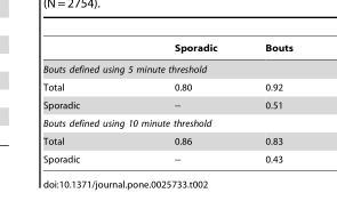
<table><thead><tr><td></td><td>Sporadic</td><td>Bouts</td></tr></thead><tbody><tr><td colspan="3">Bouts defined using 5 minute threshold</td></tr><tr><td>Total</td><td>0.80</td><td>0.92</td></tr><tr><td>Sporadic</td><td>--</td><td>0.51</td></tr><tr><td colspan="3">Bouts defined using 10 minute threshold</td></tr><tr><td>Total</td><td>0.86</td><td>0.83</td></tr><tr><td>Sporadic</td><td>--</td><td>0.43</td></tr></tbody></table>